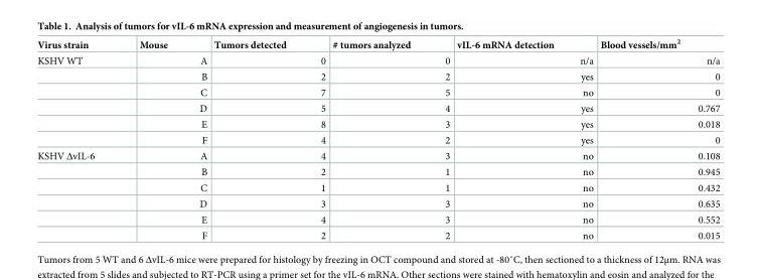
<table><thead><tr><td>Virus strain</td><td>Mouse</td><td>Tumors detected</td><td># tumors analyzed</td><td>vIL-6 mRNA detection</td><td>Blood vessels/mm<sup>2</sup></td></tr></thead><tbody><tr><td rowspan="6">KSHV WT</td><td>A</td><td>0</td><td>0</td><td>n/a</td><td>n/a</td></tr><tr><td>B</td><td>2</td><td>2</td><td>yes</td><td>0</td></tr><tr><td>C</td><td>7</td><td>5</td><td>no</td><td>0</td></tr><tr><td>D</td><td>5</td><td>4</td><td>yes</td><td>0.767</td></tr><tr><td>E</td><td>8</td><td>3</td><td>yes</td><td>0.018</td></tr><tr><td>F</td><td>4</td><td>2</td><td>yes</td><td>0</td></tr><tr><td rowspan="6">KSHV ΔvIL-6</td><td>A</td><td>4</td><td>3</td><td>no</td><td>0.108</td></tr><tr><td>B</td><td>2</td><td>1</td><td>no</td><td>0.945</td></tr><tr><td>C</td><td>1</td><td>1</td><td>no</td><td>0.432</td></tr><tr><td>D</td><td>3</td><td>3</td><td>no</td><td>0.635</td></tr><tr><td>E</td><td>4</td><td>3</td><td>no</td><td>0.552</td></tr><tr><td>F</td><td>2</td><td>2</td><td>no</td><td>0.015</td></tr></tbody></table>